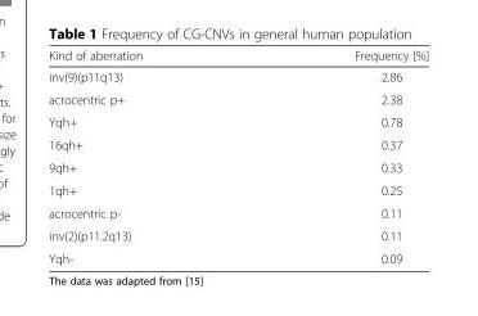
<table><thead><tr><td>Kind of aberration</td><td>Frequency [%]</td></tr></thead><tbody><tr><td>inv(9)(p11q13)</td><td>2.86</td></tr><tr><td>acrocentric p+</td><td>2.38</td></tr><tr><td>Yqh+</td><td>0.78</td></tr><tr><td>16qh+</td><td>0.37</td></tr><tr><td>9qh+</td><td>0.33</td></tr><tr><td>1qh+</td><td>0.25</td></tr><tr><td>acrocentric p-</td><td>0.11</td></tr><tr><td>inv(2)(p11.2q13)</td><td>0.11</td></tr><tr><td>Yqh-</td><td>0.09</td></tr></tbody></table>